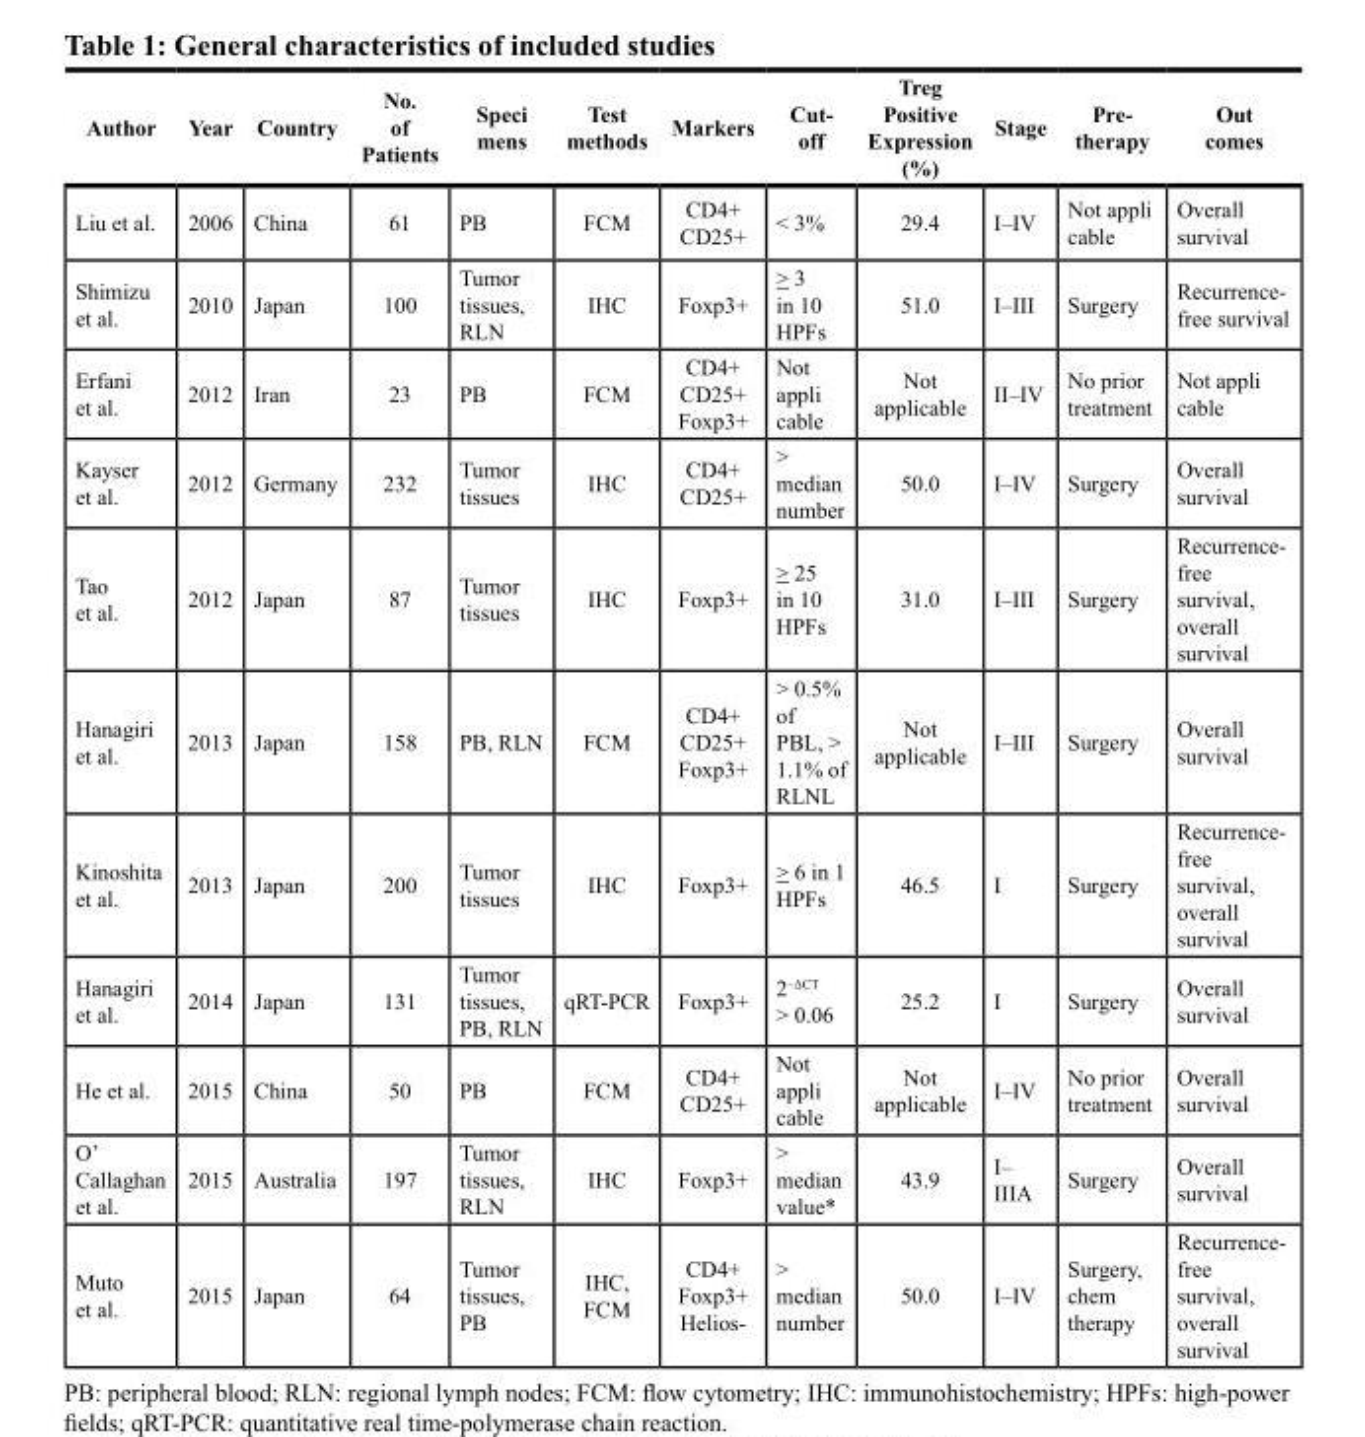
<table><thead><tr><td>Author</td><td>Year</td><td>Country</td><td>No. of Patients</td><td>speci mens</td><td>Test methods</td><td>Markers</td><td>Cut- off</td><td>Treg Positive Expression (%)</td><td>stage</td><td>Pre- therapy</td><td>Out comes</td></tr></thead><tbody><tr><td>Liu et al.</td><td>2006</td><td>China</td><td>61</td><td>PB</td><td>FCM</td><td>CD4+ CD25+</td><td>&lt; 3%</td><td>29.4</td><td>I–IV</td><td>Not appli cable</td><td>Overall survival</td></tr><tr><td>Shimizu et al.</td><td>2010</td><td>Japan</td><td>100</td><td>Tumor tissues, RLN</td><td>IHC</td><td>Foxp3+</td><td>&gt; 3 in 10 HPFs</td><td>51.0</td><td>I–III</td><td>Surgery</td><td>Recurrence- free survival</td></tr><tr><td>Erfani et al.</td><td>2012</td><td>Iran</td><td>23</td><td>PB</td><td>FCM</td><td>CD4+ CD25+ Foxp3+</td><td>Not appli cable</td><td>Not applicable</td><td>II–IV</td><td>No prior treatment</td><td>Not appli cable</td></tr><tr><td>Kayser et al.</td><td>2012</td><td>Germany</td><td>232</td><td>Tumor tissues</td><td>IHC</td><td>CD4+ CD25+</td><td>&gt; median number</td><td>50.0</td><td>I–IV</td><td>Surgery</td><td>Overall survival</td></tr><tr><td>Tao et al.</td><td>2012</td><td>Japan</td><td>87</td><td>Tumor tissues</td><td>IHC</td><td>Foxp3+</td><td>&gt; 25 in 10 HPFs</td><td>31.0</td><td>I–III</td><td>Surgery</td><td>Recurrence- free survival, overall survival</td></tr><tr><td>Hanagiri et al.</td><td>2013</td><td>Japan</td><td>158</td><td>PB, RLN</td><td>FCM</td><td>CD4+ CD25+ Foxp3+</td><td>&gt; 0.5% of PBL, &gt; 1.1% of RLNL</td><td>Not applicable</td><td>I–III</td><td>Surgery</td><td>Overall survival</td></tr><tr><td>Kinoshita et al.</td><td>2013</td><td>Japan</td><td>200</td><td>Tumor tissues</td><td>IHC</td><td>Foxp3+</td><td>&gt; 6 in 1 HPFs</td><td>46.5</td><td>I</td><td>Surgery</td><td>Recurrence- free survival, overall survival</td></tr><tr><td>Hanagiri et al.</td><td>2014</td><td>Japan</td><td>131</td><td>Tumor tissues, PB, RLN</td><td>qRT-PCR</td><td>Foxp3+</td><td>2–ΔCT &gt; 0.06</td><td>25.2</td><td>I</td><td>Surgery</td><td>Overall survival</td></tr><tr><td>He et al.</td><td>2015</td><td>China</td><td>50</td><td>PB</td><td>FCM</td><td>CD4+ CD25+</td><td>Not appli cable</td><td>Not applicable</td><td>I–IV</td><td>No prior treatment</td><td>Overall survival</td></tr><tr><td>O’ Callaghan et al.</td><td>2015</td><td>Australia</td><td>197</td><td>Tumor tissues, RLN</td><td>IHC</td><td>Foxp3+</td><td>&gt; median value*</td><td>43.9</td><td>I– IIIA</td><td>Surgery</td><td>Overall survival</td></tr><tr><td>Muto et al.</td><td>2015</td><td>Japan</td><td>64</td><td>Tumor tissues, PB</td><td>IHC, FCM</td><td>CD4+ Foxp3+ Helios-</td><td>&gt; median number</td><td>50.0</td><td>I–IV</td><td>Surgery, chem therapy</td><td>Recurrence- free survival, overall survival</td></tr></tbody></table>